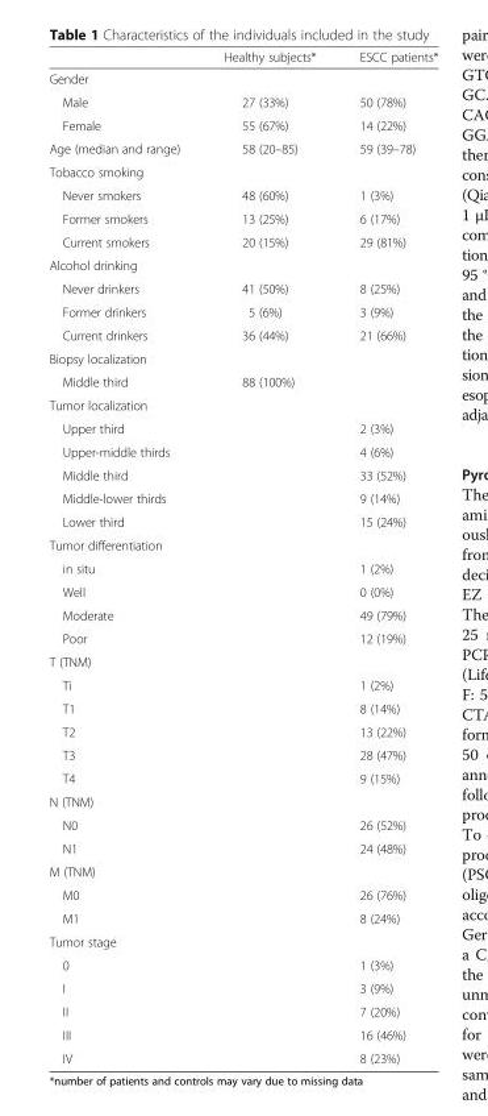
<table><thead><tr><td></td><td>Healthy subjects*</td><td>ESCC patients*</td></tr></thead><tbody><tr><td colspan="3">Gender</td></tr><tr><td>Male</td><td>27 (33%)</td><td>50 (78%)</td></tr><tr><td>Female</td><td>55 (67%)</td><td>14 (22%)</td></tr><tr><td>Age (median and range)</td><td>58 (20–85)</td><td>59 (39–78)</td></tr><tr><td colspan="3">Tobacco smoking</td></tr><tr><td>Never smokers</td><td>48 (60%)</td><td>1 (3%)</td></tr><tr><td>Former smokers</td><td>13 (25%)</td><td>6 (17%)</td></tr><tr><td>Current smokers</td><td>20 (15%)</td><td>29 (81%)</td></tr><tr><td colspan="3">Alcohol drinking</td></tr><tr><td>Never drinkers</td><td>41 (50%)</td><td>8 (25%)</td></tr><tr><td>Former drinkers</td><td>5 (6%)</td><td>3 (9%)</td></tr><tr><td>Current drinkers</td><td>36 (44%)</td><td>21 (66%)</td></tr><tr><td colspan="3">Biopsy localization</td></tr><tr><td>Middle third</td><td>88 (100%)</td><td></td></tr><tr><td colspan="3">Tumor localization</td></tr><tr><td>Upper third</td><td></td><td>2 (3%)</td></tr><tr><td>Upper-middle thirds</td><td></td><td>4 (6%)</td></tr><tr><td>Middle third</td><td></td><td>33 (52%)</td></tr><tr><td>Middle-lower thirds</td><td></td><td>9 (14%)</td></tr><tr><td>Lower third</td><td></td><td>15 (24%)</td></tr><tr><td colspan="3">Tumor differentiation</td></tr><tr><td>in situ</td><td></td><td>1 (2%)</td></tr><tr><td>Well</td><td></td><td>0 (0%)</td></tr><tr><td>Moderate</td><td></td><td>49 (79%)</td></tr><tr><td>Poor</td><td></td><td>12 (19%)</td></tr><tr><td colspan="3">T (TNM)</td></tr><tr><td>Ti</td><td></td><td>1 (2%)</td></tr><tr><td>T1</td><td></td><td>8 (14%)</td></tr><tr><td>T2</td><td></td><td>13 (22%)</td></tr><tr><td>T3</td><td></td><td>28 (47%)</td></tr><tr><td>T4</td><td></td><td>9 (15%)</td></tr><tr><td colspan="3">N (TNM)</td></tr><tr><td>N0</td><td></td><td>26 (52%)</td></tr><tr><td>N1</td><td></td><td>24 (48%)</td></tr><tr><td colspan="3">M (TNM)</td></tr><tr><td>M0</td><td></td><td>26 (76%)</td></tr><tr><td>M1</td><td></td><td>8 (24%)</td></tr><tr><td colspan="3">Tumor stage</td></tr><tr><td>0</td><td></td><td>1 (3%)</td></tr><tr><td>I</td><td></td><td>3 (9%)</td></tr><tr><td>II</td><td></td><td>7 (20%)</td></tr><tr><td>III</td><td></td><td>16 (46%)</td></tr><tr><td>IV</td><td></td><td>8 (23%)</td></tr></tbody></table>